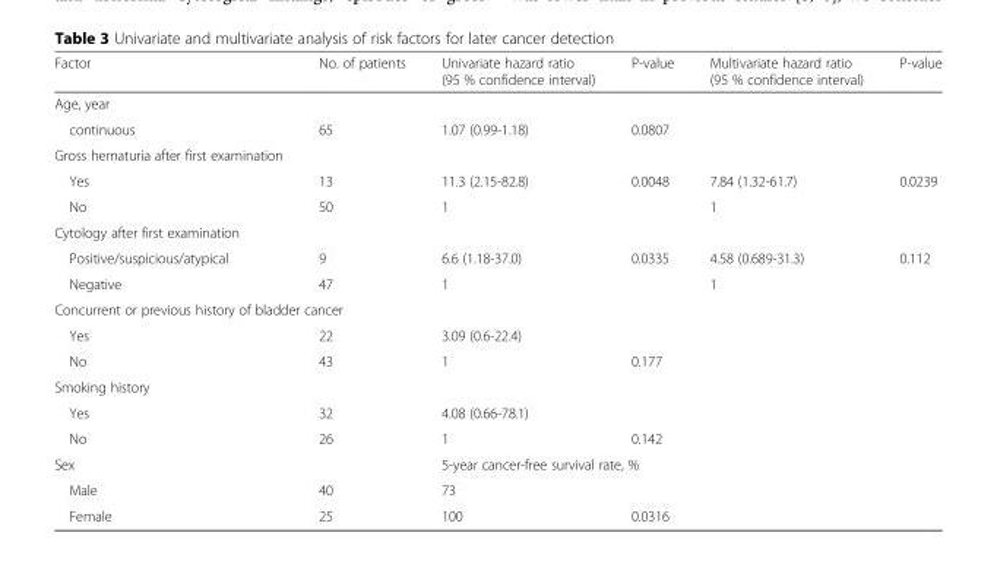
<table><thead><tr><td>Factor</td><td>No. of patients</td><td>Univariate hazard ratio (95 % confidence interval)</td><td>P-value</td><td>Multivariate hazard ratio (95 % confidence interval)</td><td>P-value</td></tr></thead><tbody><tr><td colspan="6">Age, year</td></tr><tr><td>continuous</td><td>65</td><td>1.07 (0.99-1.18)</td><td>0.0807</td><td></td><td></td></tr><tr><td colspan="6">Gross hematuria after first examination</td></tr><tr><td>Yes</td><td>13</td><td>11.3 (2.15-82.8)</td><td>0.0048</td><td>7.84 (1.32-61.7)</td><td>0.0239</td></tr><tr><td>No</td><td>50</td><td>1</td><td></td><td>1</td><td></td></tr><tr><td colspan="6">Cytology after first examination</td></tr><tr><td>Positive/suspicious/atypical</td><td>9</td><td>6.6 (1.18-37.0)</td><td>0.0335</td><td>4.58 (0.689-31.3)</td><td>0.112</td></tr><tr><td>Negative</td><td>47</td><td>1</td><td></td><td>1</td><td></td></tr><tr><td colspan="6">Concurrent or previous history of bladder cancer</td></tr><tr><td>Yes</td><td>22</td><td>3.09 (0.6-22.4)</td><td></td><td></td><td></td></tr><tr><td>No</td><td>43</td><td>1</td><td>0.177</td><td></td><td></td></tr><tr><td colspan="6">Smoking history</td></tr><tr><td>Yes</td><td>32</td><td>4.08 (0.66-78.1)</td><td></td><td></td><td></td></tr><tr><td>No</td><td>26</td><td>1</td><td>0.142</td><td></td><td></td></tr><tr><td colspan="2">Sex</td><td colspan="4">5-year cancer-free survival rate, %</td></tr><tr><td>Male</td><td>40</td><td>73</td><td></td><td></td><td></td></tr><tr><td>Female</td><td>25</td><td>100</td><td>0.0316</td><td></td><td></td></tr></tbody></table>